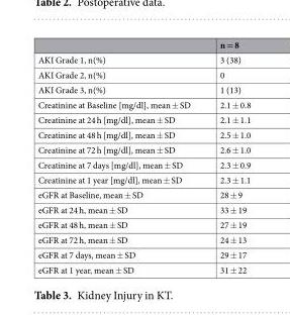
<table><thead><tr><td></td><td>n = 8</td></tr></thead><tbody><tr><td>AKI Grade 1, n(%)</td><td>3 (38)</td></tr><tr><td>AKI Grade 2, n(%)</td><td>0</td></tr><tr><td>AKI Grade 3, n(%)</td><td>1 (13)</td></tr><tr><td>Creatinine at Baseline [mg/dl], mean ± SD</td><td>2.1 ± 0.8</td></tr><tr><td>Creatinine at 24 h [mg/dl], mean ± SD</td><td>2.1 ± 1.1</td></tr><tr><td>Creatinine at 48 h [mg/dl], mean ± SD</td><td>2.5 ± 1.0</td></tr><tr><td>Creatinine at 72 h [mg/dl], mean ± SD</td><td>2.6 ± 1.0</td></tr><tr><td>Creatinine at 7 days [mg/dl], mean ± SD</td><td>2.3 ± 0.9</td></tr><tr><td>Creatinine at 1 year [mg/dl], mean ± SD</td><td>2.3 ± 1.1</td></tr><tr><td>eGFR at Baseline, mean ± SD</td><td>28 ± 9</td></tr><tr><td>eGFR at 24 h, mean ± SD</td><td>33 ± 19</td></tr><tr><td>eGFR at 48 h, mean ± SD</td><td>27 ± 19</td></tr><tr><td>eGFR at 72 h, mean ± SD</td><td>24 ± 13</td></tr><tr><td>eGFR at 7 days, mean ± SD</td><td>29 ± 17</td></tr><tr><td>eGFR at 1 year, mean ± SD</td><td>31 ± 22</td></tr></tbody></table>